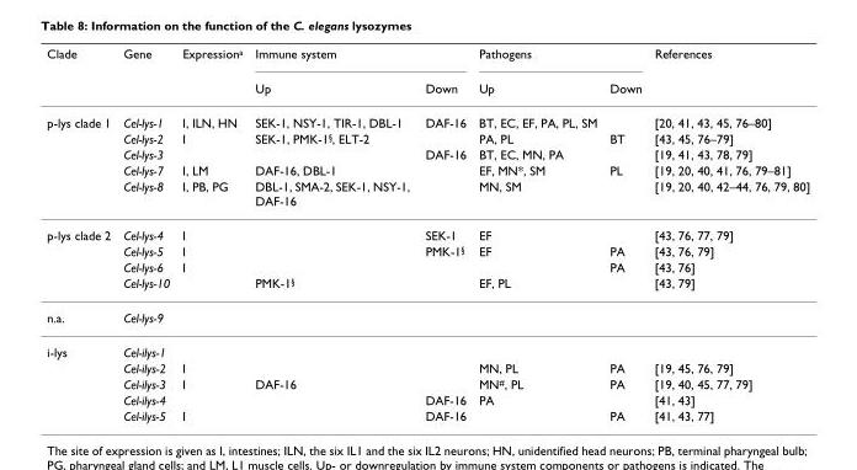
<table><thead><tr><td rowspan="2">Clade</td><td rowspan="2">Gene</td><td rowspan="2">Expression<sup>a</sup></td><td colspan="2">Immune system</td><td colspan="2">Pathogens</td><td rowspan="2">References</td></tr><tr><td>Up</td><td>Down</td><td>Up</td><td>Down</td></tr></thead><tbody><tr><td rowspan="5">p-lys clade 1</td><td>Cel-lys-1</td><td>I, ILN, HN</td><td>SEK-1, NSY-1, TIR-1, DBL-1</td><td>DAF-16</td><td>BT, EC, EF, PA, PL, SM</td><td></td><td>[20, 41, 43, 45, 76–80]</td></tr><tr><td>Cel-lys-2</td><td>I</td><td>SEK-1, PMK-1<sup>§</sup>, ELT-2</td><td></td><td>PA, PL</td><td>BT</td><td>[43, 45, 76–79]</td></tr><tr><td>Cel-lys-3</td><td></td><td></td><td>DAF-16</td><td>BT, EC, MN, PA</td><td></td><td>[19, 41, 43, 78, 79]</td></tr><tr><td>Cel-lys-7</td><td>I, LM</td><td>DAF-16, DBL-1</td><td></td><td>EF, MN*, SM</td><td>PL</td><td>[19, 20, 40, 41, 76, 79–81]</td></tr><tr><td>Cel-lys-8</td><td>I, PB, PG</td><td>DBL-1, SMA-2, SEK-1, NSY-1, DAF-16</td><td></td><td>MN, SM</td><td></td><td>[19, 20, 40, 42–44, 76, 79, 80]</td></tr><tr><td rowspan="4">p-lys clade 2</td><td>Cel-lys-4</td><td>I</td><td></td><td>SEK-1</td><td>EF</td><td></td><td>[43, 76, 77, 79]</td></tr><tr><td>Cel-lys-5</td><td>I</td><td></td><td>PMK-1<sup>§</sup></td><td>EF</td><td>PA</td><td>[43, 76, 79]</td></tr><tr><td>Cel-lys-6</td><td>I</td><td></td><td></td><td></td><td>PA</td><td>[43, 76]</td></tr><tr><td>Cel-lys-10</td><td></td><td>PMK-1<sup>§</sup></td><td></td><td>EF, PL</td><td></td><td>[43, 79]</td></tr><tr><td>n.a.</td><td>Cel-lys-9</td><td></td><td></td><td></td><td></td><td></td><td></td></tr><tr><td rowspan="5">i-lys</td><td>Cel-ilys-1</td><td></td><td></td><td></td><td></td><td></td><td></td></tr><tr><td>Cel-ilys-2</td><td>I</td><td></td><td></td><td>MN, PL</td><td>PA</td><td>[19, 45, 76, 79]</td></tr><tr><td>Cel-ilys-3</td><td>I</td><td>DAF-16</td><td></td><td>MN<sup>#</sup>, PL</td><td>PA</td><td>[19, 40, 45, 77, 79]</td></tr><tr><td>Cel-ilys-4</td><td></td><td></td><td>DAF-16</td><td>PA</td><td></td><td>[41, 43]</td></tr><tr><td>Cel-ilys-5</td><td>I</td><td></td><td>DAF-16</td><td></td><td>PA</td><td>[41, 43, 77]</td></tr></tbody></table>